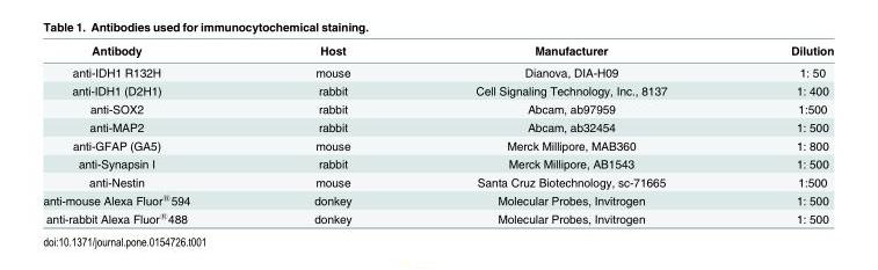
<table><thead><tr><td>Antibody</td><td>Host</td><td>Manufacturer</td><td>Dilution</td></tr></thead><tbody><tr><td>anti-IDH1 R132H</td><td>mouse</td><td>Dianova, DIA-H09</td><td>1: 50</td></tr><tr><td>anti-IDH1 (D2H1)</td><td>rabbit</td><td>Cell Signaling Technology, Inc., 8137</td><td>1: 400</td></tr><tr><td>anti-SOX2</td><td>rabbit</td><td>Abcam, ab97959</td><td>1:500</td></tr><tr><td>anti-MAP2</td><td>rabbit</td><td>Abcam, ab32454</td><td>1: 500</td></tr><tr><td>anti-GFAP (GA5)</td><td>mouse</td><td>Merck Millipore, MAB360</td><td>1: 800</td></tr><tr><td>anti-Synapsin I</td><td>rabbit</td><td>Merck Millipore, AB1543</td><td>1: 500</td></tr><tr><td>anti-Nestin</td><td>mouse</td><td>Santa Cruz Biotechnology, sc-71665</td><td>1:500</td></tr><tr><td>anti-mouse Alexa Fluor<sup>®</sup>594</td><td>donkey</td><td>Molecular Probes, Invitrogen</td><td>1: 500</td></tr><tr><td>anti-rabbit Alexa Fluor<sup>®</sup>488</td><td>donkey</td><td>Molecular Probes, Invitrogen</td><td>1: 500</td></tr></tbody></table>